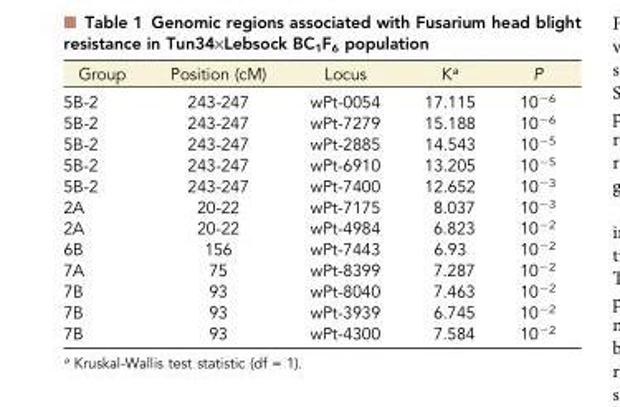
<table><thead><tr><td>Group</td><td>Position (cM)</td><td>Locus</td><td>K<sup>a</sup></td><td>P</td></tr></thead><tbody><tr><td>5B-2</td><td>243-247</td><td>wPt-0054</td><td>17.115</td><td>10<sup>−6</sup></td></tr><tr><td>5B-2</td><td>243-247</td><td>wPt-7279</td><td>15.188</td><td>10<sup>−6</sup></td></tr><tr><td>5B-2</td><td>243-247</td><td>wPt-2885</td><td>14.543</td><td>10<sup>−5</sup></td></tr><tr><td>5B-2</td><td>243-247</td><td>wPt-6910</td><td>13.205</td><td>10<sup>−5</sup></td></tr><tr><td>5B-2</td><td>243-247</td><td>wPt-7400</td><td>12.652</td><td>10<sup>−3</sup></td></tr><tr><td>2A</td><td>20-22</td><td>wPt-7175</td><td>8.037</td><td>10<sup>−3</sup></td></tr><tr><td>2A</td><td>20-22</td><td>wPt-4984</td><td>6.823</td><td>10<sup>−2</sup></td></tr><tr><td>6B</td><td>156</td><td>wPt-7443</td><td>6.93</td><td>10<sup>−2</sup></td></tr><tr><td>7A</td><td>75</td><td>wPt-8399</td><td>7.287</td><td>10<sup>−2</sup></td></tr><tr><td>7B</td><td>93</td><td>wPt-8040</td><td>7.463</td><td>10<sup>−2</sup></td></tr><tr><td>7B</td><td>93</td><td>wPt-3939</td><td>6.745</td><td>10<sup>−2</sup></td></tr><tr><td>7B</td><td>93</td><td>wPt-4300</td><td>7.584</td><td>10<sup>−2</sup></td></tr></tbody></table>